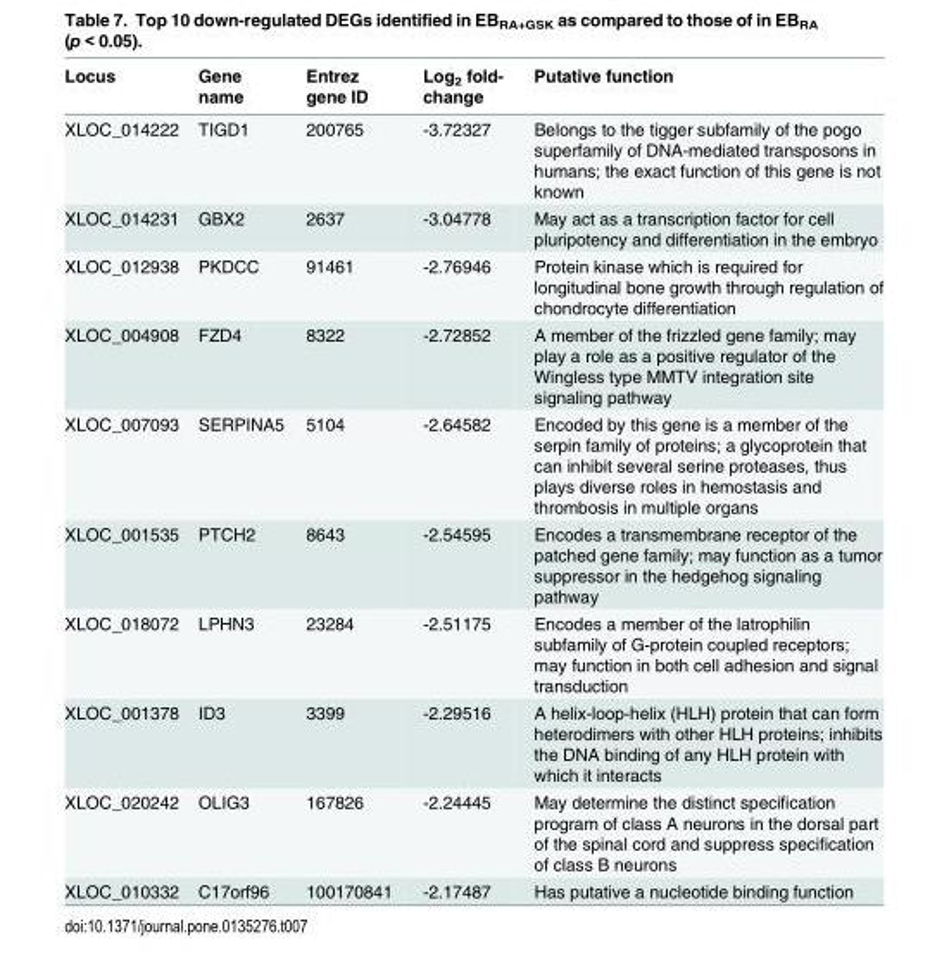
<table><thead><tr><td>Locus</td><td>Gene name</td><td>Entrez gene ID</td><td>Log<sub>2</sub> fold- change</td><td>Putative function</td></tr></thead><tbody><tr><td>XLOC_014222</td><td>TIGD1</td><td>200765</td><td>-3.72327</td><td>Belongs to the tigger subfamily of the pogo superfamily of DNA-mediated transposons in humans; the exact function of this gene is not known</td></tr><tr><td>XLOC_014231</td><td>GBX2</td><td>2637</td><td>-3.04778</td><td>May act as a transcription factor for cell pluripotency and differentiation in the embryo</td></tr><tr><td>XLOC_012938</td><td>PKDCC</td><td>91461</td><td>-2.76946</td><td>Protein kinase which is required for longitudinal bone growth through regulation of chondrocyte differentiation</td></tr><tr><td>XLOC_004908</td><td>FZD4</td><td>8322</td><td>-2.72852</td><td>A member of the frizzled gene family; may play a role as a positive regulator of the Wingless type MMTV integration site signaling pathway</td></tr><tr><td>XLOC_007093</td><td>SERPINA5</td><td>5104</td><td>-2.64582</td><td>Encoded by this gene is a member of the serpin family of proteins; a glycoprotein that can inhibit several serine proteases, thus plays diverse roles in hemostasis and thrombosis in multiple organs</td></tr><tr><td>XLOC_001535</td><td>PTCH2</td><td>8643</td><td>-2.54595</td><td>Encodes a transmembrane receptor of the patched gene family; may function as a tumor suppressor in the hedgehog signaling pathway</td></tr><tr><td>XLOC_018072</td><td>LPHN3</td><td>23284</td><td>-2.51175</td><td>Encodes a member of the latrophilin subfamily of G-protein coupled receptors; may function in both cell adhesion and signal transduction</td></tr><tr><td>XLOC_001378</td><td>ID3</td><td>3399</td><td>-2.29516</td><td>A helix-loop-helix (HLH) protein that can form heterodimers with other HLH proteins; inhibits the DNA binding of any HLH protein with which it interacts</td></tr><tr><td>XLOC_020242</td><td>OLIG3</td><td>167826</td><td>-2.24445</td><td>May determine the distinct specification program of class A neurons in the dorsal part of the spinal cord and suppress specification of class B neurons</td></tr><tr><td>XLOC_010332</td><td>C17orf96</td><td>100170841</td><td>-2.17487</td><td>Has putative a nucleotide binding function</td></tr></tbody></table>